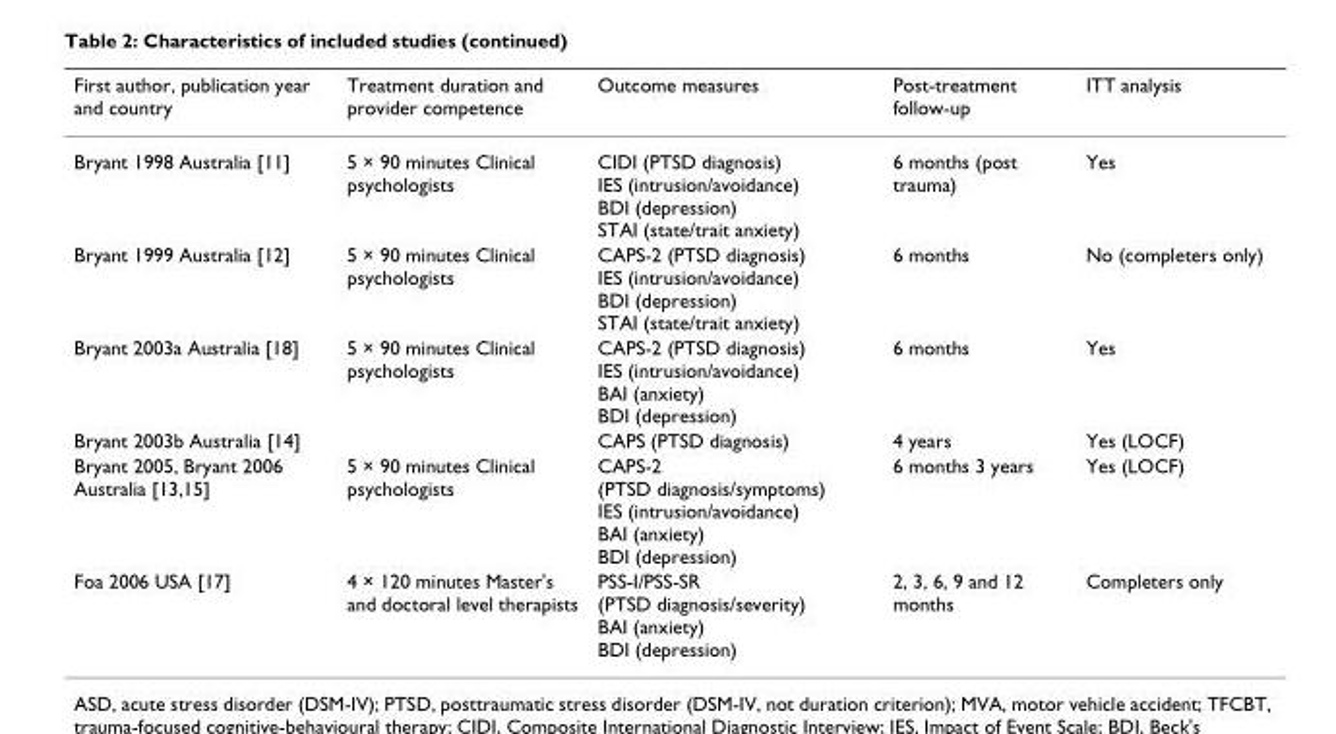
<table><thead><tr><td>First author, publication year and country</td><td>Treatment duration and provider competence</td><td>Outcome measures</td><td>Post-treatment follow-up</td><td>ITT analysis</td></tr></thead><tbody><tr><td>Bryant 1998 Australia [11]</td><td>5 × 90 minutes Clinical psychologists</td><td>CIDI (PTSD diagnosis) IES (intrusion/avoidance) BDI (depression) STAI (state/trait anxiety)</td><td>6 months (post trauma)</td><td>Yes</td></tr><tr><td>Bryant 1999 Australia [12]</td><td>5 × 90 minutes Clinical psychologists</td><td>CAPS-2 (PTSD diagnosis) IES (intrusion/avoidance) BDI (depression) STAI (state/trait anxiety)</td><td>6 months</td><td>No (completers only)</td></tr><tr><td>Bryant 2003a Australia [18]</td><td>5 × 90 minutes Clinical psychologists</td><td>CAPS-2 (PTSD diagnosis) IES (intrusion/avoidance) BAI (anxiety) BDI (depression)</td><td>6 months</td><td>Yes</td></tr><tr><td>Bryant 2003b Australia [14]</td><td></td><td>CAPS (PTSD diagnosis)</td><td>4 years</td><td>Yes (LOCF)</td></tr><tr><td>Bryant 2005, Bryant 2006 Australia [13,15]</td><td>5 × 90 minutes Clinical psychologists</td><td>CAPS-2 (PTSD diagnosis/symptoms) IES (intrusion/avoidance) BAI (anxiety) BDI (depression)</td><td>6 months 3 years</td><td>Yes (LOCF)</td></tr><tr><td>Foa 2006 USA [17]</td><td>4 × 120 minutes Master&#x27;s and doctoral level therapists</td><td>PSS-I/PSS-SR (PTSD diagnosis/severity) BAI (anxiety) BDI (depression)</td><td>2, 3, 6, 9 and 12 months</td><td>Completers only</td></tr></tbody></table>